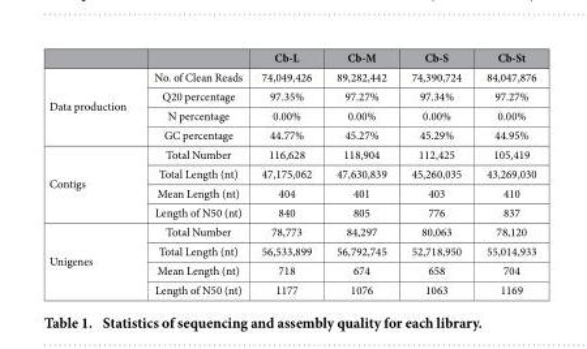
<table><thead><tr><td></td><td></td><td>Cb-L</td><td>Cb-M</td><td>Cb-S</td><td>Cb-St</td></tr></thead><tbody><tr><td rowspan="4">Data production</td><td>No. of Clean Reads</td><td>74,049,426</td><td>89,282,442</td><td>74,390,724</td><td>84,047,876</td></tr><tr><td>Q20 percentage</td><td>97.35%</td><td>97.27%</td><td>97.34%</td><td>97.27%</td></tr><tr><td>N percentage</td><td>0.00%</td><td>0.00%</td><td>0.00%</td><td>0.00%</td></tr><tr><td>GC percentage</td><td>44.77%</td><td>45.27%</td><td>45.29%</td><td>44.95%</td></tr><tr><td rowspan="4">Contigs</td><td>Total Number</td><td>116,628</td><td>118,904</td><td>112,425</td><td>105,419</td></tr><tr><td>Total Length (nt)</td><td>47,175,062</td><td>47,630,839</td><td>45,260,035</td><td>43,269,030</td></tr><tr><td>Mean Length (nt)</td><td>404</td><td>401</td><td>403</td><td>410</td></tr><tr><td>Length of N50 (nt)</td><td>840</td><td>805</td><td>776</td><td>837</td></tr><tr><td rowspan="4">Unigenes</td><td>Total Number</td><td>78,773</td><td>84,297</td><td>80,063</td><td>78,120</td></tr><tr><td>Total Length (nt)</td><td>56,533,899</td><td>56,792,745</td><td>52,718,950</td><td>55,014,933</td></tr><tr><td>Mean Length (nt)</td><td>718</td><td>674</td><td>658</td><td>704</td></tr><tr><td>Length of N50 (nt)</td><td>1177</td><td>1076</td><td>1063</td><td>1169</td></tr></tbody></table>